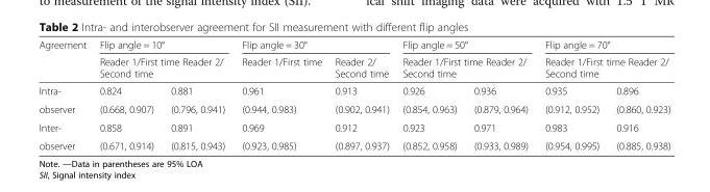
<table><thead><tr><td rowspan="3">Agreement Intra-</td><td rowspan="2" colspan="2">Flip angle = 10° Reader 1/First time Reader 2/ Second time</td><td colspan="2">Flip angle = 30°</td><td rowspan="2" colspan="2">Flip angle = 50° Reader 1/First time Reader 2/ Second time</td><td rowspan="2" colspan="2">Flip angle = 70° Reader 1/First time Reader 2/ Second time</td></tr><tr><td rowspan="2">Reader 1/First time 0.961</td><td rowspan="2">Reader 2/ Second time 0.913</td></tr><tr><td>0.824</td><td>0.881</td><td>0.926</td><td>0.936</td><td>0.935</td><td>0.896</td></tr></thead><tbody><tr><td>observer</td><td>(0.668, 0.907)</td><td>(0.796, 0.941)</td><td>(0.944, 0.983)</td><td>(0.902, 0.941)</td><td>(0.854, 0.963)</td><td>(0.879, 0.964)</td><td>(0.912, 0.952)</td><td>(0.860, 0.923)</td></tr><tr><td>Inter-</td><td>0.858</td><td>0.891</td><td>0.969</td><td>0.912</td><td>0.923</td><td>0.971</td><td>0.983</td><td>0.916</td></tr><tr><td>observer</td><td>(0.671, 0.914)</td><td>(0.815, 0.943)</td><td>(0.923, 0.985)</td><td>(0.897, 0.937)</td><td>(0.852, 0.958)</td><td>(0.933, 0.989)</td><td>(0.954, 0.995)</td><td>(0.885, 0.938)</td></tr></tbody></table>